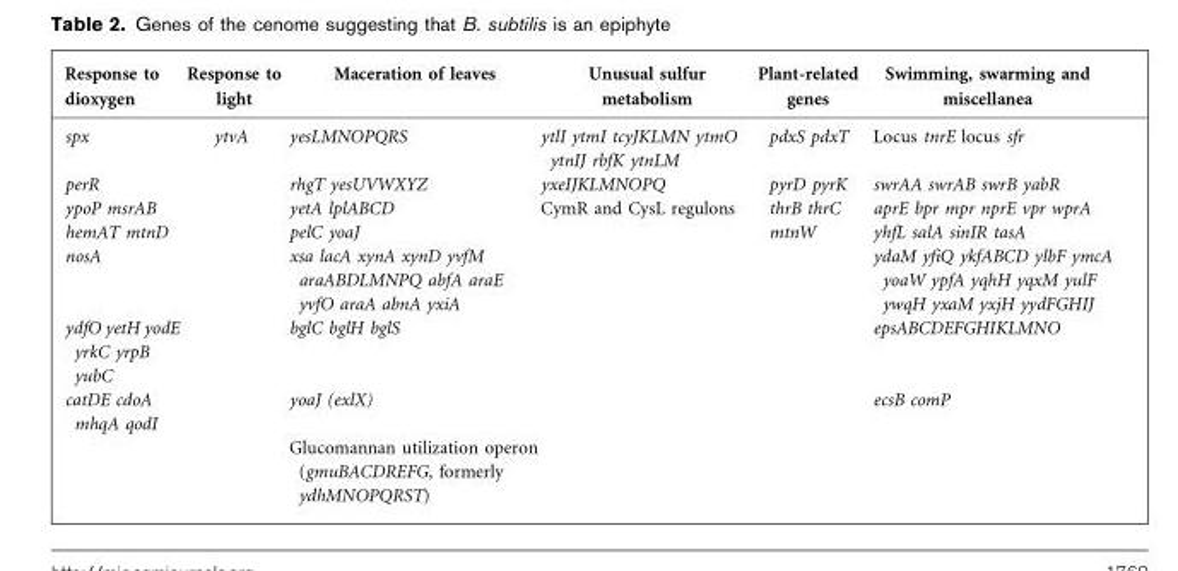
<table><thead><tr><td>Response to dioxygen</td><td>Response to light</td><td>Maceration of leaves</td><td>Unusual sulfur metabolism</td><td>Plant-related genes</td><td>Swimming, swarming and miscellanea</td></tr></thead><tbody><tr><td>spx</td><td>ytvA</td><td>yesLMNOPQRS</td><td>ytlI ytmI tcyJKLMN ytmO ytnIJ rbfK ytnLM</td><td>pdxS pdxT</td><td>Locus tnrE locus sfr</td></tr><tr><td>perR</td><td></td><td>rhgT yesUVWXYZ</td><td>yxeIJKLMNOPQ</td><td>pyrD pyrK</td><td>swrAA swrAB swrB yabR</td></tr><tr><td>ypoP msrAB</td><td></td><td>yetA lplABCD</td><td>CymR and CysL regulons</td><td>thrB thrC</td><td>aprE bpr mpr nprE vpr wprA</td></tr><tr><td>hemAT mtnD</td><td></td><td>pelC yoaJ</td><td></td><td>mtnW</td><td>yhfL salA sinIR tasA</td></tr><tr><td>nosA</td><td></td><td>xsa lacA xynA xynD yvfM araABDLMNPQ abfA araE yvfO araA abnA yxiA</td><td></td><td></td><td>ydaM yfiQ ykfABCD ylbF ymcA yoaW ypfA yqhH yqxM yulF ywqH yxaM yxjH yydFGHIJ</td></tr><tr><td>ydfO yetH yodE yrkC yrpB yubC</td><td></td><td>bglC bglH bglS</td><td></td><td></td><td>epsABCDEFGHIKLMNO</td></tr><tr><td rowspan="2">catDE cdoA mhqA qodI</td><td></td><td>yoaJ (exlX)</td><td></td><td></td><td>ecsB comP</td></tr><tr><td></td><td>Glucomannan utilization operon (gmuBACDREFG, formerly ydhMNOPQRST)</td><td></td><td></td><td></td></tr></tbody></table>